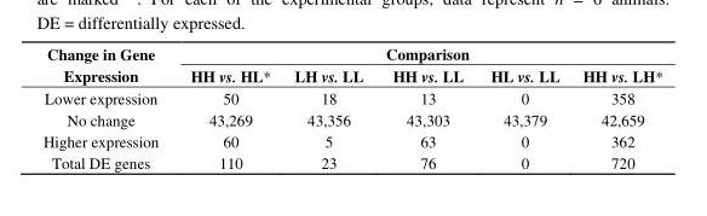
<table><thead><tr><td rowspan="2">Change in Gene Expression</td><td colspan="5">Comparison</td></tr><tr><td>HH vs. HL*</td><td>LH vs. LL</td><td>HH vs. LL</td><td>HL vs. LL</td><td>HH vs. LH*</td></tr></thead><tbody><tr><td>Lower expression</td><td>50</td><td>18</td><td>13</td><td>0</td><td>358</td></tr><tr><td>No change</td><td>43,269</td><td>43,356</td><td>43,303</td><td>43,379</td><td>42,659</td></tr><tr><td>Higher expression</td><td>60</td><td>5</td><td>63</td><td>0</td><td>362</td></tr><tr><td>Total DE genes</td><td>110</td><td>23</td><td>76</td><td>0</td><td>720</td></tr></tbody></table>